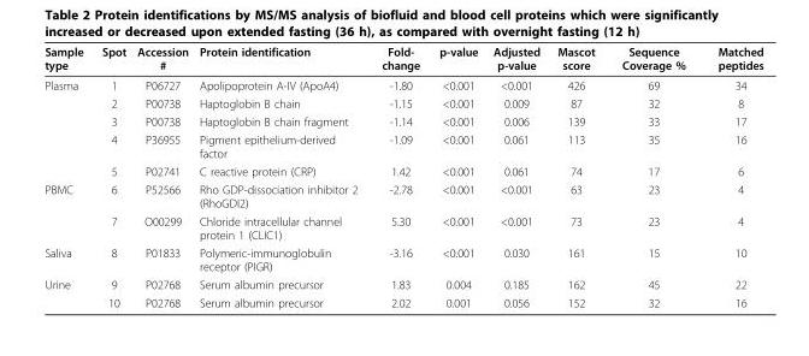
<table><thead><tr><td>Sample type</td><td>Spot</td><td>Accession #</td><td>Protein identification</td><td>Fold- change</td><td>p-value</td><td>Adjusted p-value</td><td>Mascot score</td><td>Sequence Coverage %</td><td>Matched peptides</td></tr></thead><tbody><tr><td rowspan="5">Plasma</td><td>1</td><td>P06727</td><td>Apolipoprotein A-IV (ApoA4)</td><td>-1.80</td><td>&lt;0.001</td><td>&lt;0.001</td><td>426</td><td>69</td><td>34</td></tr><tr><td>2</td><td>P00738</td><td>Haptoglobin B chain</td><td>-1.15</td><td>&lt;0.001</td><td>0.009</td><td>87</td><td>32</td><td>8</td></tr><tr><td>3</td><td>P00738</td><td>Haptoglobin B chain fragment</td><td>-1.14</td><td>&lt;0.001</td><td>0.006</td><td>139</td><td>33</td><td>17</td></tr><tr><td>4</td><td>P36955</td><td>Pigment epithelium-derived factor</td><td>-1.09</td><td>&lt;0.001</td><td>0.061</td><td>113</td><td>35</td><td>16</td></tr><tr><td>5</td><td>P02741</td><td>C reactive protein (CRP)</td><td>1.42</td><td>&lt;0.001</td><td>0.061</td><td>74</td><td>17</td><td>6</td></tr><tr><td rowspan="2">PBMC</td><td>6</td><td>P52566</td><td>Rho GDP-dissociation inhibitor 2 (RhoGDI2)</td><td>-2.78</td><td>&lt;0.001</td><td>&lt;0.001</td><td>63</td><td>23</td><td>4</td></tr><tr><td>7</td><td>O00299</td><td>Chloride intracellular channel protein 1 (CLIC1)</td><td>5.30</td><td>&lt;0.001</td><td>&lt;0.001</td><td>73</td><td>23</td><td>4</td></tr><tr><td>Saliva</td><td>8</td><td>P01833</td><td>Polymeric-immunoglobulin receptor (PIGR)</td><td>-3.16</td><td>&lt;0.001</td><td>0.030</td><td>161</td><td>15</td><td>10</td></tr><tr><td rowspan="2">Urine</td><td>9</td><td>P02768</td><td>Serum albumin precursor</td><td>1.83</td><td>0.004</td><td>0.185</td><td>162</td><td>45</td><td>22</td></tr><tr><td>10</td><td>P02768</td><td>Serum albumin precursor</td><td>2.02</td><td>0.001</td><td>0.056</td><td>152</td><td>32</td><td>16</td></tr></tbody></table>